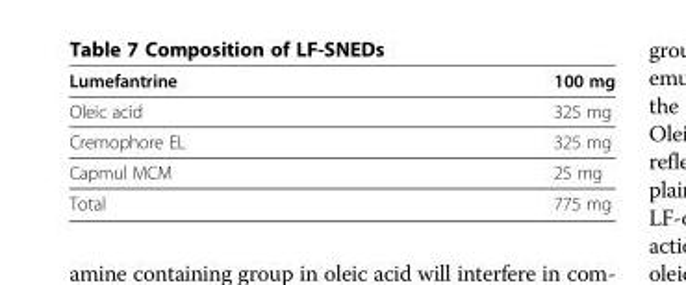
<table><thead><tr><td>Lumefantrine</td><td>100 mg</td></tr></thead><tbody><tr><td>Oleic acid</td><td>325 mg</td></tr><tr><td>Cremophore EL</td><td>325 mg</td></tr><tr><td>Capmul MCM</td><td>25 mg</td></tr><tr><td>Total</td><td>775 mg</td></tr></tbody></table>